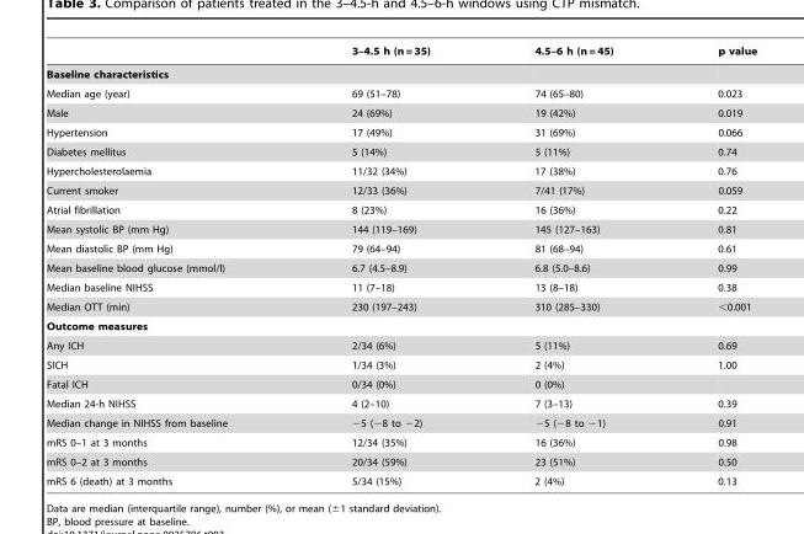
<table><thead><tr><td></td><td>3–4.5 h (n = 35)</td><td>4.5–6 h (n = 45)</td><td>p value</td></tr></thead><tbody><tr><td colspan="4">Baseline characteristics</td></tr><tr><td>Median age (year)</td><td>69 (51–78)</td><td>74 (65–80)</td><td>0.023</td></tr><tr><td>Male</td><td>24 (69%)</td><td>19 (42%)</td><td>0.019</td></tr><tr><td>Hypertension</td><td>17 (49%)</td><td>31 (69%)</td><td>0.066</td></tr><tr><td>Diabetes mellitus</td><td>5 (14%)</td><td>5 (11%)</td><td>0.74</td></tr><tr><td>Hypercholesterolaemia</td><td>11/32 (34%)</td><td>17 (38%)</td><td>0.76</td></tr><tr><td>Current smoker</td><td>12/33 (36%)</td><td>7/41 (17%)</td><td>0.059</td></tr><tr><td>Atrial fibrillation</td><td>8 (23%)</td><td>16 (36%)</td><td>0.22</td></tr><tr><td>Mean systolic BP (mm Hg)</td><td>144 (119–169)</td><td>145 (127–163)</td><td>0.81</td></tr><tr><td>Mean diastolic BP (mm Hg)</td><td>79 (64–94)</td><td>81 (68–94)</td><td>0.61</td></tr><tr><td>Mean baseline blood glucose (mmol/l)</td><td>6.7 (4.5–8.9)</td><td>6.8 (5.0–8.6)</td><td>0.99</td></tr><tr><td>Median baseline NIHSS</td><td>11 (7–18)</td><td>13 (8–18)</td><td>0.38</td></tr><tr><td>Median OTT (min)</td><td>230 (197–243)</td><td>310 (285–330)</td><td>&lt;0.001</td></tr><tr><td colspan="4">Outcome measures</td></tr><tr><td>Any ICH</td><td>2/34 (6%)</td><td>5 (11%)</td><td>0.69</td></tr><tr><td>SICH</td><td>1/34 (3%)</td><td>2 (4%)</td><td>1.00</td></tr><tr><td>Fatal ICH</td><td>0/34 (0%)</td><td>0 (0%)</td><td></td></tr><tr><td>Median 24-h NIHSS</td><td>4 (2–10)</td><td>7 (3–13)</td><td>0.39</td></tr><tr><td>Median change in NIHSS from baseline</td><td>−5 (−8 to −2)</td><td>−5 (−8 to −1)</td><td>0.91</td></tr><tr><td>mRS 0–1 at 3 months</td><td>12/34 (35%)</td><td>16 (36%)</td><td>0.98</td></tr><tr><td>mRS 0–2 at 3 months</td><td>20/34 (59%)</td><td>23 (51%)</td><td>0.50</td></tr><tr><td>mRS 6 (death) at 3 months</td><td>5/34 (15%)</td><td>2 (4%)</td><td>0.13</td></tr></tbody></table>